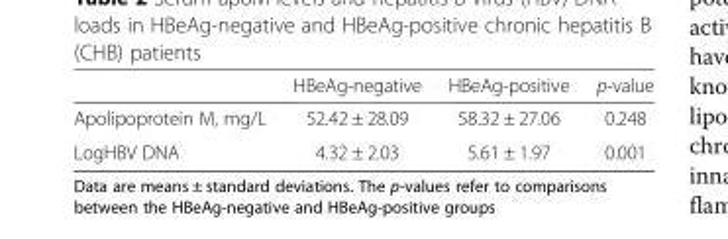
<table><thead><tr><td></td><td>HBeAg-negative</td><td>HBeAg-positive</td><td>p-value</td></tr></thead><tbody><tr><td>Apolipoprotein M, mg/L</td><td>52.42 ± 28.09</td><td>58.32 ± 27.06</td><td>0.248</td></tr><tr><td>LogHBV DNA</td><td>4.32 ± 2.03</td><td>5.61 ± 1.97</td><td>0.001</td></tr></tbody></table>